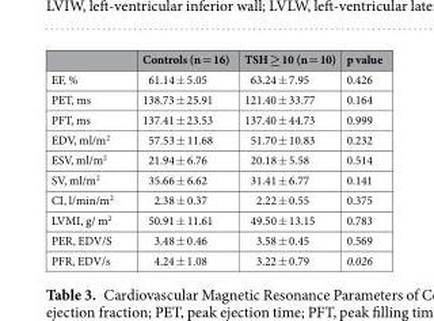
<table><thead><tr><td></td><td>Controls (n = 16)</td><td>TSH ≥ 10 (n = 10)</td><td>p value</td></tr></thead><tbody><tr><td>EF, %</td><td>61.14 ± 5.05</td><td>63.24 ± 7.95</td><td>0.426</td></tr><tr><td>PET, ms</td><td>138.73 ± 25.91</td><td>121.40 ± 33.77</td><td>0.164</td></tr><tr><td>PFT, ms</td><td>137.41 ± 23.53</td><td>137.40 ± 44.73</td><td>0.999</td></tr><tr><td>EDV, ml/m<sup>2</sup></td><td>57.53 ± 11.68</td><td>51.70 ± 10.83</td><td>0.232</td></tr><tr><td>ESV, ml/m<sup>2</sup></td><td>21.94 ± 6.76</td><td>20.18 ± 5.58</td><td>0.514</td></tr><tr><td>SV, ml/m<sup>2</sup></td><td>35.66 ± 6.62</td><td>31.41 ± 6.77</td><td>0.141</td></tr><tr><td>CI, l/min/m<sup>2</sup></td><td>2.38 ± 0.37</td><td>2.22 ± 0.55</td><td>0.375</td></tr><tr><td>LVMI, g/ m<sup>2</sup></td><td>50.91 ± 11.61</td><td>49.50 ± 13.15</td><td>0.783</td></tr><tr><td>PER, EDV/S</td><td>3.48 ± 0.46</td><td>3.58 ± 0.45</td><td>0.569</td></tr><tr><td>PFR, EDV/s</td><td>4.24 ± 1.08</td><td>3.22 ± 0.79</td><td>0.026</td></tr></tbody></table>